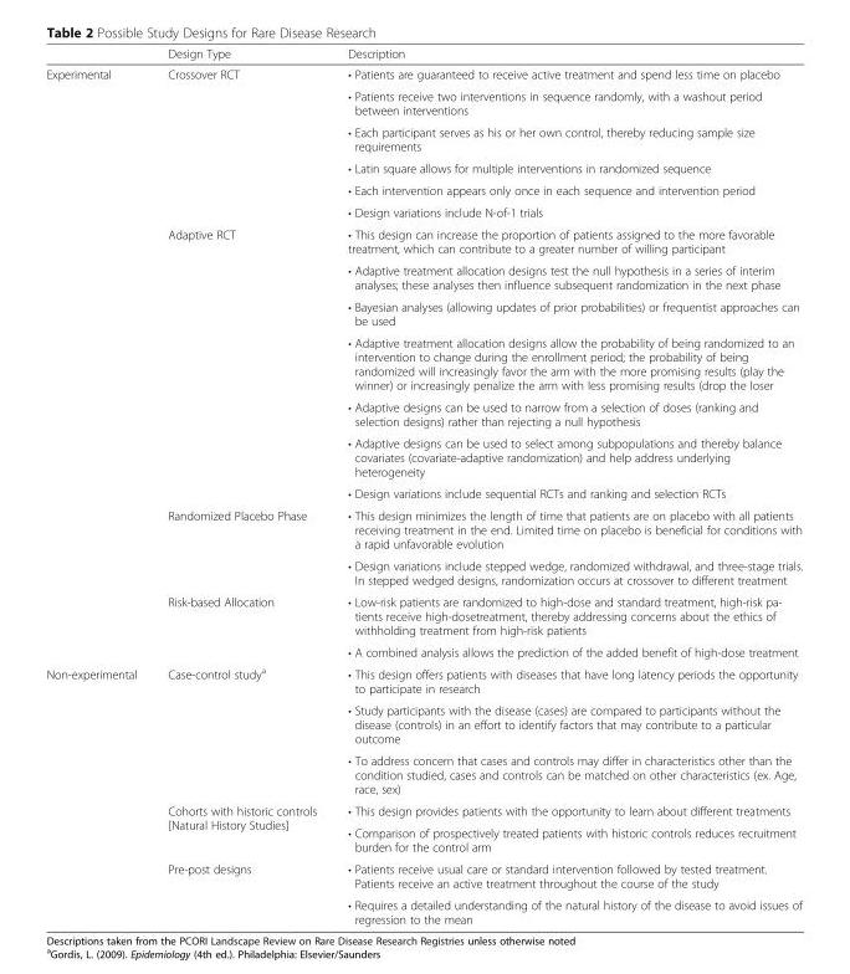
<table><thead><tr><td></td><td>Design Type</td><td>Description</td></tr></thead><tbody><tr><td rowspan="17">Experimental</td><td rowspan="6">Crossover RCT</td><td>• Patients are guaranteed to receive active treatment and spend less time on placebo</td></tr><tr><td>• Patients receive two interventions in sequence randomly, with a washout period between interventions</td></tr><tr><td>• Each participant serves as his or her own control, thereby reducing sample size requirements</td></tr><tr><td>• Latin square allows for multiple interventions in randomized sequence</td></tr><tr><td>• Each intervention appears only once in each sequence and intervention period</td></tr><tr><td>• Design variations include N-of-1 trials</td></tr><tr><td rowspan="7">Adaptive RCT</td><td>• This design can increase the proportion of patients assigned to the more favorable treatment, which can contribute to a greater number of willing participant</td></tr><tr><td>• Adaptive treatment allocation designs test the null hypothesis in a series of interim analyses; these analyses then influence subsequent randomization in the next phase</td></tr><tr><td>• Bayesian analyses (allowing updates of prior probabilities) or frequentist approaches can be used</td></tr><tr><td>• Adaptive treatment allocation designs allow the probability of being randomized to an intervention to change during the enrollment period; the probability of being randomized will increasingly favor the arm with the more promising results (play the winner) or increasingly penalize the arm with less promising results (drop the loser</td></tr><tr><td>• Adaptive designs can be used to narrow from a selection of doses (ranking and selection designs) rather than rejecting a null hypothesis</td></tr><tr><td>• Adaptive designs can be used to select among subpopulations and thereby balance covariates (covariate-adaptive randomization) and help address underlying heterogeneity</td></tr><tr><td>• Design variations include sequential RCTs and ranking and selection RCTs</td></tr><tr><td rowspan="2">Randomized Placebo Phase</td><td>• This design minimizes the length of time that patients are on placebo with all patients receiving treatment in the end. Limited time on placebo is beneficial for conditions with a rapid unfavorable evolution</td></tr><tr><td>• Design variations include stepped wedge, randomized withdrawal, and three-stage trials. In stepped wedged designs, randomization occurs at crossover to different treatment</td></tr><tr><td rowspan="2">Risk-based Allocation</td><td>• Low-risk patients are randomized to high-dose and standard treatment, high-risk pa- tients receive high-dosetreatment, thereby addressing concerns about the ethics of withholding treatment from high-risk patients</td></tr><tr><td>• A combined analysis allows the prediction of the added benefit of high-dose treatment</td></tr><tr><td rowspan="7">Non-experimental</td><td rowspan="3">Case-control study<sup>a</sup></td><td>• This design offers patients with diseases that have long latency periods the opportunity to participate in research</td></tr><tr><td>• Study participants with the disease (cases) are compared to participants without the disease (controls) in an effort to identify factors that may contribute to a particular outcome</td></tr><tr><td>• To address concern that cases and controls may differ in characteristics other than the condition studied, cases and controls can be matched on other characteristics (ex. Age, race, sex)</td></tr><tr><td rowspan="2">Cohorts with historic controls [Natural History Studies]</td><td>• This design provides patients with the opportunity to learn about different treatments</td></tr><tr><td>• Comparison of prospectively treated patients with historic controls reduces recruitment burden for the control arm</td></tr><tr><td rowspan="2">Pre-post designs</td><td>• Patients receive usual care or standard intervention followed by tested treatment. Patients receive an active treatment throughout the course of the study</td></tr><tr><td>• Requires a detailed understanding of the natural history of the disease to avoid issues of regression to the mean</td></tr></tbody></table>